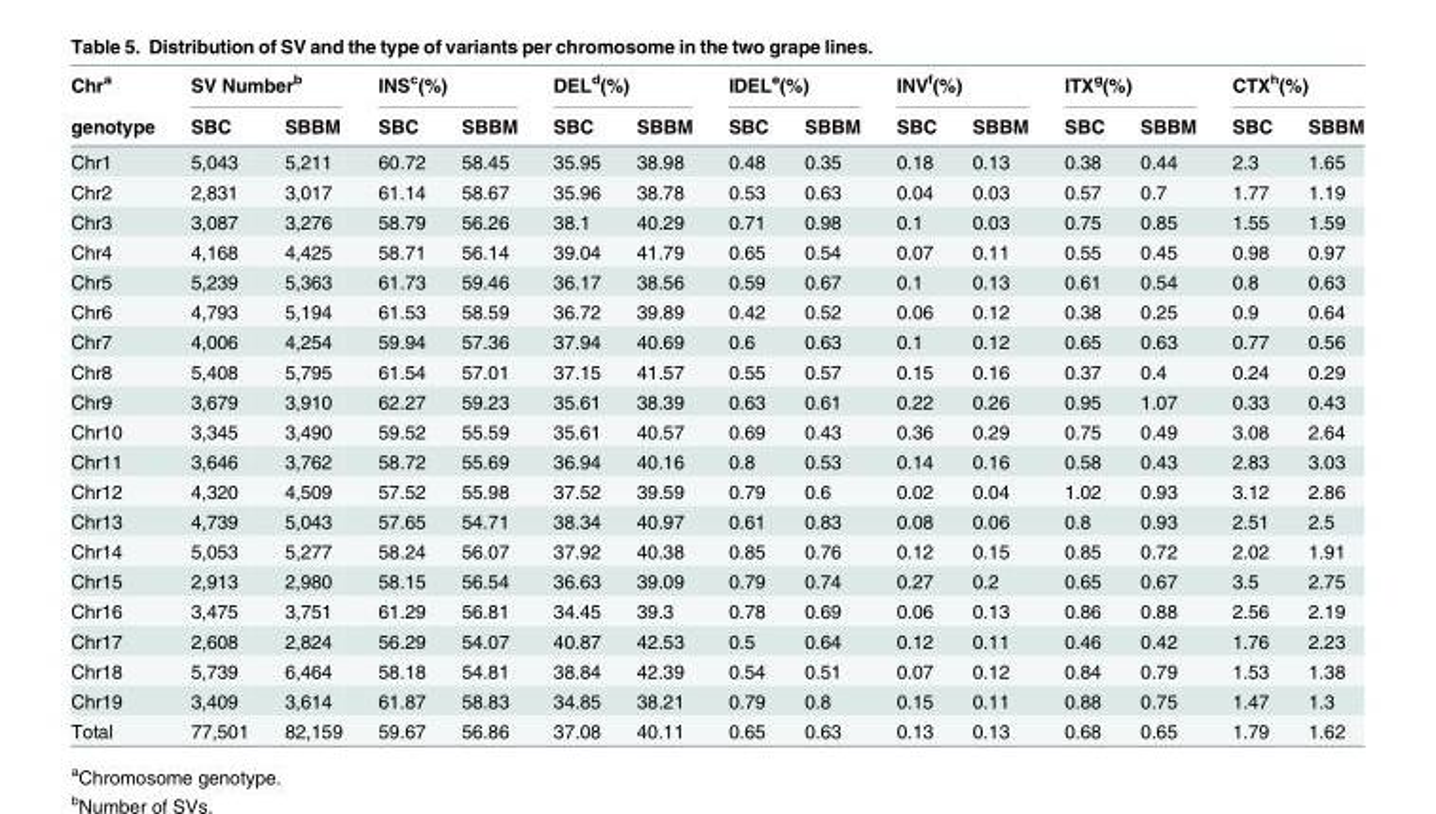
<table><thead><tr><td rowspan="2">Chr<sup>a</sup> genotype</td><td colspan="2">SV Number<sup>b</sup></td><td colspan="2">INS<sup>c</sup>(%)</td><td colspan="2">DEL<sup>d</sup>(%)</td><td colspan="2">IDEL<sup>e</sup>(%)</td><td colspan="2">INV<sup>f</sup>(%)</td><td colspan="2">ITX<sup>g</sup>(%)</td><td colspan="2">CTX<sup>h</sup>(%)</td></tr><tr><td>SBC</td><td>SBBM</td><td>SBC</td><td>SBBM</td><td>SBC</td><td>SBBM</td><td>SBC</td><td>SBBM</td><td>SBC</td><td>SBBM</td><td>SBC</td><td>SBBM</td><td>SBC</td><td>SBBM</td></tr></thead><tbody><tr><td>Chr1</td><td>5,043</td><td>5,211</td><td>60.72</td><td>58.45</td><td>35.95</td><td>38.98</td><td>0.48</td><td>0.35</td><td>0.18</td><td>0.13</td><td>0.38</td><td>0.44</td><td>2.3</td><td>1.65</td></tr><tr><td>Chr2</td><td>2,831</td><td>3,017</td><td>61.14</td><td>58.67</td><td>35.96</td><td>38.78</td><td>0.53</td><td>0.63</td><td>0.04</td><td>0.03</td><td>0.57</td><td>0.7</td><td>1.77</td><td>1.19</td></tr><tr><td>Chr3</td><td>3,087</td><td>3,276</td><td>58.79</td><td>56.26</td><td>38.1</td><td>40.29</td><td>0.71</td><td>0.98</td><td>0.1</td><td>0.03</td><td>0.75</td><td>0.85</td><td>1.55</td><td>1.59</td></tr><tr><td>Chr4</td><td>4,168</td><td>4,425</td><td>58.71</td><td>56.14</td><td>39.04</td><td>41.79</td><td>0.65</td><td>0.54</td><td>0.07</td><td>0.11</td><td>0.55</td><td>0.45</td><td>0.98</td><td>0.97</td></tr><tr><td>Chr5</td><td>5,239</td><td>5,363</td><td>61.73</td><td>59.46</td><td>36.17</td><td>38.56</td><td>0.59</td><td>0.67</td><td>0.1</td><td>0.13</td><td>0.61</td><td>0.54</td><td>0.8</td><td>0.63</td></tr><tr><td>Chr6</td><td>4,793</td><td>5,194</td><td>61.53</td><td>58.59</td><td>36.72</td><td>39.89</td><td>0.42</td><td>0.52</td><td>0.06</td><td>0.12</td><td>0.38</td><td>0.25</td><td>0.9</td><td>0.64</td></tr><tr><td>Chr7</td><td>4,006</td><td>4,254</td><td>59.94</td><td>57.36</td><td>37.94</td><td>40.69</td><td>0.6</td><td>0.63</td><td>0.1</td><td>0.12</td><td>0.65</td><td>0.63</td><td>0.77</td><td>0.56</td></tr><tr><td>Chr8</td><td>5,408</td><td>5,795</td><td>61.54</td><td>57.01</td><td>37.15</td><td>41.57</td><td>0.55</td><td>0.57</td><td>0.15</td><td>0.16</td><td>0.37</td><td>0.4</td><td>0.24</td><td>0.29</td></tr><tr><td>Chr9</td><td>3,679</td><td>3,910</td><td>62.27</td><td>59.23</td><td>35.61</td><td>38.39</td><td>0.63</td><td>0.61</td><td>0.22</td><td>0.26</td><td>0.95</td><td>1.07</td><td>0.33</td><td>0.43</td></tr><tr><td>Chr10</td><td>3,345</td><td>3,490</td><td>59.52</td><td>55.59</td><td>35.61</td><td>40.57</td><td>0.69</td><td>0.43</td><td>0.36</td><td>0.29</td><td>0.75</td><td>0.49</td><td>3.08</td><td>2.64</td></tr><tr><td>Chr11</td><td>3,646</td><td>3,762</td><td>58.72</td><td>55.69</td><td>36.94</td><td>40.16</td><td>0.8</td><td>0.53</td><td>0.14</td><td>0.16</td><td>0.58</td><td>0.43</td><td>2.83</td><td>3.03</td></tr><tr><td>Chr12</td><td>4,320</td><td>4,509</td><td>57.52</td><td>55.98</td><td>37.52</td><td>39.59</td><td>0.79</td><td>0.6</td><td>0.02</td><td>0.04</td><td>1.02</td><td>0.93</td><td>3.12</td><td>2.86</td></tr><tr><td>Chr13</td><td>4,739</td><td>5,043</td><td>57.65</td><td>54.71</td><td>38.34</td><td>40.97</td><td>0.61</td><td>0.83</td><td>0.08</td><td>0.06</td><td>0.8</td><td>0.93</td><td>2.51</td><td>2.5</td></tr><tr><td>Chr14</td><td>5,053</td><td>5,277</td><td>58.24</td><td>56.07</td><td>37.92</td><td>40.38</td><td>0.85</td><td>0.76</td><td>0.12</td><td>0.15</td><td>0.85</td><td>0.72</td><td>2.02</td><td>1.91</td></tr><tr><td>Chr15</td><td>2,913</td><td>2,980</td><td>58.15</td><td>56.54</td><td>36.63</td><td>39.09</td><td>0.79</td><td>0.74</td><td>0.27</td><td>0.2</td><td>0.65</td><td>0.67</td><td>3.5</td><td>2.75</td></tr><tr><td>Chr16</td><td>3,475</td><td>3,751</td><td>61.29</td><td>56.81</td><td>34.45</td><td>39.3</td><td>0.78</td><td>0.69</td><td>0.06</td><td>0.13</td><td>0.86</td><td>0.88</td><td>2.56</td><td>2.19</td></tr><tr><td>Chr17</td><td>2,608</td><td>2,824</td><td>56.29</td><td>54.07</td><td>40.87</td><td>42.53</td><td>0.5</td><td>0.64</td><td>0.12</td><td>0.11</td><td>0.46</td><td>0.42</td><td>1.76</td><td>2.23</td></tr><tr><td>Chr18</td><td>5,739</td><td>6,464</td><td>58.18</td><td>54.81</td><td>38.84</td><td>42.39</td><td>0.54</td><td>0.51</td><td>0.07</td><td>0.12</td><td>0.84</td><td>0.79</td><td>1.53</td><td>1.38</td></tr><tr><td>Chr19</td><td>3,409</td><td>3,614</td><td>61.87</td><td>58.83</td><td>34.85</td><td>38.21</td><td>0.79</td><td>0.8</td><td>0.15</td><td>0.11</td><td>0.88</td><td>0.75</td><td>1.47</td><td>1.3</td></tr><tr><td>Total</td><td>77,501</td><td>82,159</td><td>59.67</td><td>56.86</td><td>37.08</td><td>40.11</td><td>0.65</td><td>0.63</td><td>0.13</td><td>0.13</td><td>0.68</td><td>0.65</td><td>1.79</td><td>1.62</td></tr></tbody></table>